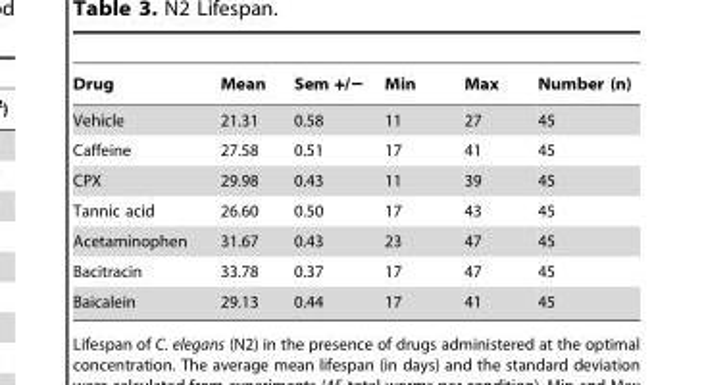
<table><thead><tr><td>Drug</td><td>Mean</td><td>Sem +/−</td><td>Min</td><td>Max</td><td>Number (n)</td></tr></thead><tbody><tr><td>Vehicle</td><td>21.31</td><td>0.58</td><td>11</td><td>27</td><td>45</td></tr><tr><td>Caffeine</td><td>27.58</td><td>0.51</td><td>17</td><td>41</td><td>45</td></tr><tr><td>CPX</td><td>29.98</td><td>0.43</td><td>11</td><td>39</td><td>45</td></tr><tr><td>Tannic acid</td><td>26.60</td><td>0.50</td><td>17</td><td>43</td><td>45</td></tr><tr><td>Acetaminophen</td><td>31.67</td><td>0.43</td><td>23</td><td>47</td><td>45</td></tr><tr><td>Bacitracin</td><td>33.78</td><td>0.37</td><td>17</td><td>47</td><td>45</td></tr><tr><td>Baicalein</td><td>29.13</td><td>0.44</td><td>17</td><td>41</td><td>45</td></tr></tbody></table>